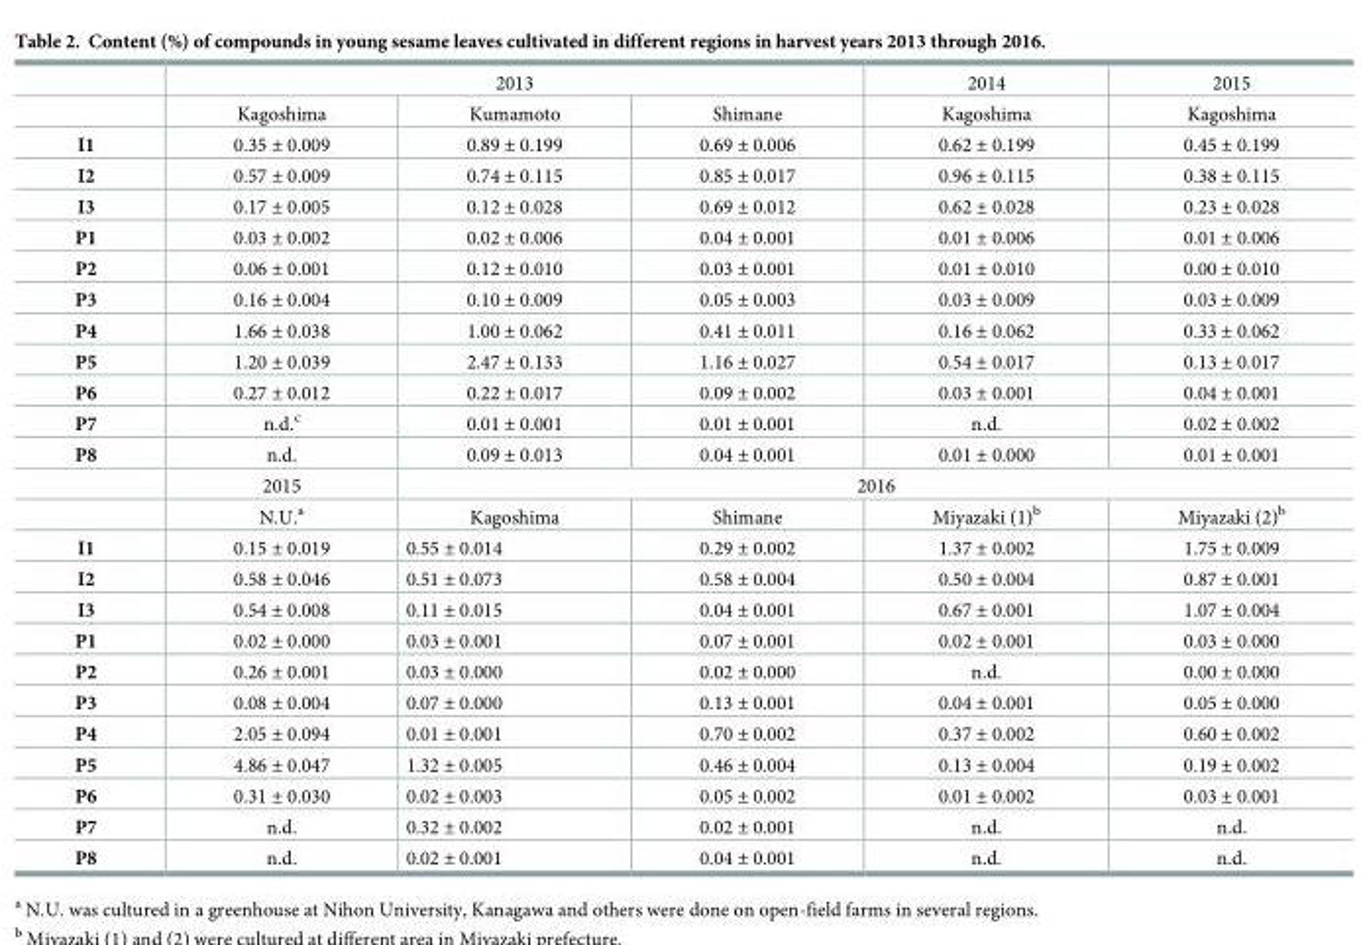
<table><thead><tr><td rowspan="2"></td><td colspan="3">2013</td><td rowspan="2">2014 Kagoshima</td><td rowspan="2">2015 Kagoshima</td></tr><tr><td>Kagoshima</td><td>Kumamoto</td><td>Shimane</td></tr></thead><tbody><tr><td>I1</td><td>0.35 ± 0.009</td><td>0.89 ± 0.199</td><td>0.69 ± 0.006</td><td>0.62 ± 0.199</td><td>0.45 ± 0.199</td></tr><tr><td>I2</td><td>0.57 ± 0.009</td><td>0.74 ± 0.115</td><td>0.85 ± 0.017</td><td>0.96 ± 0.115</td><td>0.38 ± 0.115</td></tr><tr><td>I3</td><td>0.17 ± 0.005</td><td>0.12 ± 0.028</td><td>0.69 ± 0.012</td><td>0.62 ± 0.028</td><td>0.23 ± 0.028</td></tr><tr><td>P1</td><td>0.03 ± 0.002</td><td>0.02 ± 0.006</td><td>0.04 ± 0.001</td><td>0.01 ± 0.006</td><td>0.01 ± 0.006</td></tr><tr><td>P2</td><td>0.06 ± 0.001</td><td>0.12 ± 0.010</td><td>0.03 ± 0.001</td><td>0.01 ± 0.010</td><td>0.00 ± 0.010</td></tr><tr><td>P3</td><td>0.16 ± 0.004</td><td>0.10 ± 0.009</td><td>0.05 ± 0.003</td><td>0.03 ± 0.009</td><td>0.03 ± 0.009</td></tr><tr><td>P4</td><td>1.66 ± 0.038</td><td>1.00 ± 0.062</td><td>0.41 ± 0.011</td><td>0.16 ± 0.062</td><td>0.33 ± 0.062</td></tr><tr><td>P5</td><td>1.20 ± 0.039</td><td>2.47 ± 0.133</td><td>1.16 ± 0.027</td><td>0.54 ± 0.017</td><td>0.13 ± 0.017</td></tr><tr><td>P6</td><td>0.27 ± 0.012</td><td>0.22 ± 0.017</td><td>0.09 ± 0.002</td><td>0.03 ± 0.001</td><td>0.04 ± 0.001</td></tr><tr><td>P7</td><td>n.d.<sup>c</sup></td><td>0.01 ± 0.001</td><td>0.01 ± 0.001</td><td>n.d.</td><td>0.02 ± 0.002</td></tr><tr><td rowspan="3">P8</td><td>n.d.</td><td>0.09 ± 0.013</td><td>0.04 ± 0.001</td><td>0.01 ± 0.000</td><td>0.01 ± 0.001</td></tr><tr><td>2015</td><td colspan="4">2016</td></tr><tr><td>N.U.<sup>a</sup></td><td>Kagoshima</td><td>Shimane</td><td>Miyazaki (1)<sup>b</sup></td><td>Miyazaki (2)<sup>b</sup></td></tr><tr><td>I1</td><td>0.15 ± 0.019</td><td>0.55 ± 0.014</td><td>0.29 ± 0.002</td><td>1.37 ± 0.002</td><td>1.75 ± 0.009</td></tr><tr><td>I2</td><td>0.58 ± 0.046</td><td>0.51 ± 0.073</td><td>0.58 ± 0.004</td><td>0.50 ± 0.004</td><td>0.87 ± 0.001</td></tr><tr><td>I3</td><td>0.54 ± 0.008</td><td>0.11 ± 0.015</td><td>0.04 ± 0.001</td><td>0.67 ± 0.001</td><td>1.07 ± 0.004</td></tr><tr><td>P1</td><td>0.02 ± 0.000</td><td>0.03 ± 0.001</td><td>0.07 ± 0.001</td><td>0.02 ± 0.001</td><td>0.03 ± 0.000</td></tr><tr><td>P2</td><td>0.26 ± 0.001</td><td>0.03 ± 0.000</td><td>0.02 ± 0.000</td><td>n.d.</td><td>0.00 ± 0.000</td></tr><tr><td>P3</td><td>0.08 ± 0.004</td><td>0.07 ± 0.000</td><td>0.13 ± 0.001</td><td>0.04 ± 0.001</td><td>0.05 ± 0.000</td></tr><tr><td>P4</td><td>2.05 ± 0.094</td><td>0.01 ± 0.001</td><td>0.70 ± 0.002</td><td>0.37 ± 0.002</td><td>0.60 ± 0.002</td></tr><tr><td>P5</td><td>4.86 ± 0.047</td><td>1.32 ± 0.005</td><td>0.46 ± 0.004</td><td>0.13 ± 0.004</td><td>0.19 ± 0.002</td></tr><tr><td>P6</td><td>0.31 ± 0.030</td><td>0.02 ± 0.003</td><td>0.05 ± 0.002</td><td>0.01 ± 0.002</td><td>0.03 ± 0.001</td></tr><tr><td>P7</td><td>n.d.</td><td>0.32 ± 0.002</td><td>0.02 ± 0.001</td><td>n.d.</td><td>n.d.</td></tr><tr><td>P8</td><td>n.d.</td><td>0.02 ± 0.001</td><td>0.04 ± 0.001</td><td>n.d.</td><td>n.d.</td></tr></tbody></table>